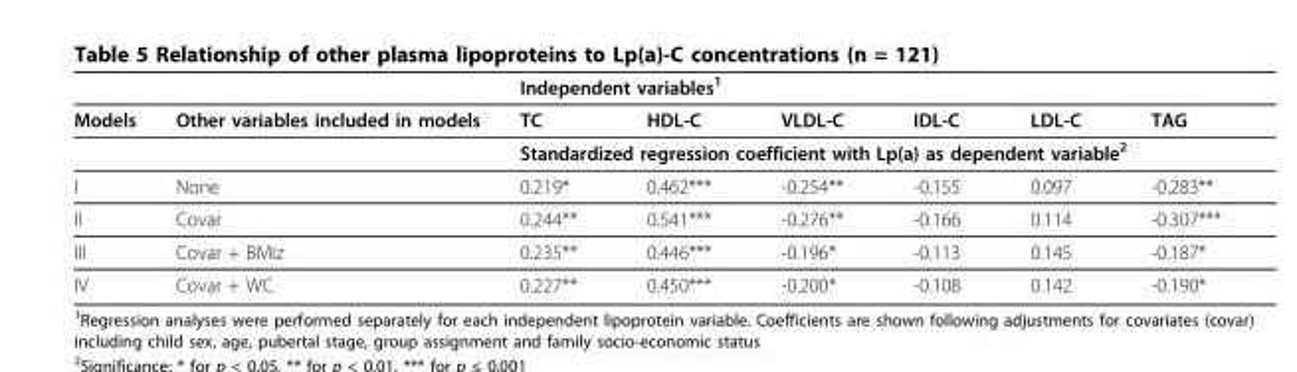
<table><thead><tr><td rowspan="2">Models</td><td rowspan="2">Other variables included in models</td><td colspan="6">Independent variables<sup>1</sup></td></tr><tr><td>TC</td><td>HDL-C</td><td>VLDL-C</td><td>IDL-C</td><td>LDL-C</td><td>TAG</td></tr></thead><tbody><tr><td></td><td></td><td colspan="6">Standardized regression coefficient with Lp(a) as dependent variable<sup>2</sup></td></tr><tr><td>I</td><td>None</td><td>0.219*</td><td>0.462***</td><td>-0.254**</td><td>-0.155</td><td>0.097</td><td>-0.283**</td></tr><tr><td>II</td><td>Covar</td><td>0.244**</td><td>0.541***</td><td>-0.276**</td><td>-0.166</td><td>0.114</td><td>-0.307***</td></tr><tr><td>III</td><td>Covar + BMIz</td><td>0.235**</td><td>0.446***</td><td>-0.196*</td><td>-0.113</td><td>0.145</td><td>-0.187*</td></tr><tr><td>IV</td><td>Covar + WC</td><td>0.227**</td><td>0.450***</td><td>-0.200*</td><td>-0.108</td><td>0.142</td><td>-0.190*</td></tr></tbody></table>